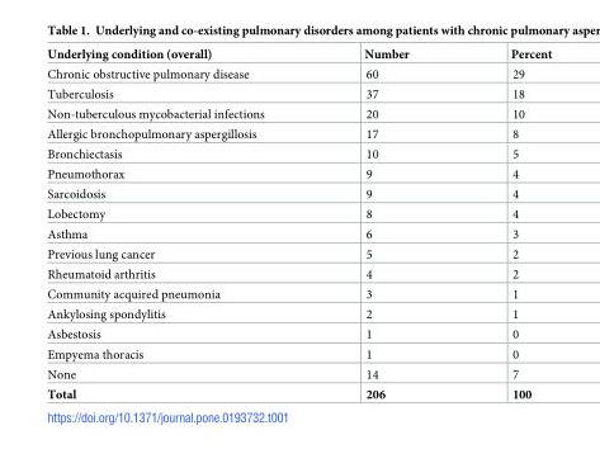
<table><thead><tr><td>Underlying condition (overall)</td><td>Number</td><td>Percent</td></tr></thead><tbody><tr><td>Chronic obstructive pulmonary disease</td><td>60</td><td>29</td></tr><tr><td>Tuberculosis</td><td>37</td><td>18</td></tr><tr><td>Non-tuberculous mycobacterial infections</td><td>20</td><td>10</td></tr><tr><td>Allergic bronchopulmonary aspergillosis</td><td>17</td><td>8</td></tr><tr><td>Bronchiectasis</td><td>10</td><td>5</td></tr><tr><td>Pneumothorax</td><td>9</td><td>4</td></tr><tr><td>Sarcoidosis</td><td>9</td><td>4</td></tr><tr><td>Lobectomy</td><td>8</td><td>4</td></tr><tr><td>Asthma</td><td>6</td><td>3</td></tr><tr><td>Previous lung cancer</td><td>5</td><td>2</td></tr><tr><td>Rheumatoid arthritis</td><td>4</td><td>2</td></tr><tr><td>Community acquired pneumonia</td><td>3</td><td>1</td></tr><tr><td>Ankylosing spondylitis</td><td>2</td><td>1</td></tr><tr><td>Asbestosis</td><td>1</td><td>0</td></tr><tr><td>Empyema thoracis</td><td>1</td><td>0</td></tr><tr><td>None</td><td>14</td><td>7</td></tr><tr><td>Total</td><td>206</td><td>100</td></tr></tbody></table>